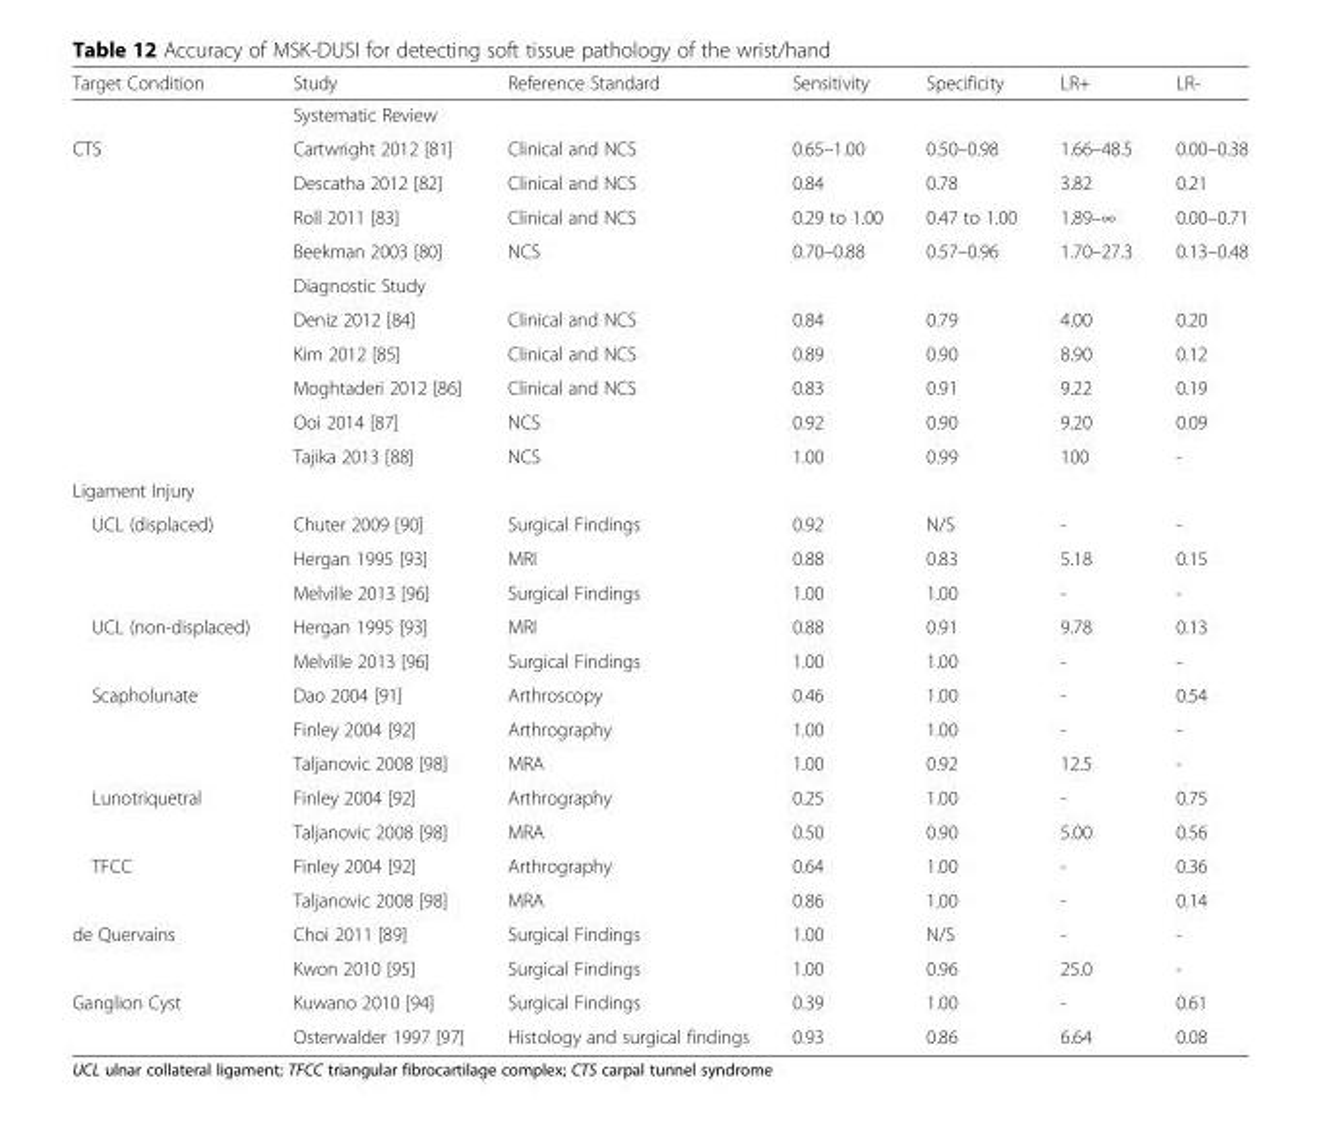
<table><thead><tr><td>Target Condition</td><td>Study</td><td>Reference Standard</td><td>Sensitivity</td><td>Specificity</td><td>LR+</td><td>LR-</td></tr></thead><tbody><tr><td></td><td>Systematic Review</td><td></td><td></td><td></td><td></td><td></td></tr><tr><td rowspan="10">CTS</td><td>Cartwright 2012 [81]</td><td>Clinical and NCS</td><td>0.65–1.00</td><td>0.50–0.98</td><td>1.66–48.5</td><td>0.00–0.38</td></tr><tr><td>Descatha 2012 [82]</td><td>Clinical and NCS</td><td>0.84</td><td>0.78</td><td>3.82</td><td>0.21</td></tr><tr><td>Roll 2011 [83]</td><td>Clinical and NCS</td><td>0.29 to 1.00</td><td>0.47 to 1.00</td><td>1.89–∞</td><td>0.00–0.71</td></tr><tr><td>Beekman 2003 [80]</td><td>NCS</td><td>0.70–0.88</td><td>0.57–0.96</td><td>1.70–27.3</td><td>0.13–0.48</td></tr><tr><td>Diagnostic Study</td><td></td><td></td><td></td><td></td><td></td></tr><tr><td>Deniz 2012 [84]</td><td>Clinical and NCS</td><td>0.84</td><td>0.79</td><td>4.00</td><td>0.20</td></tr><tr><td>Kim 2012 [85]</td><td>Clinical and NCS</td><td>0.89</td><td>0.90</td><td>8.90</td><td>0.12</td></tr><tr><td>Moghtaderi 2012 [86]</td><td>Clinical and NCS</td><td>0.83</td><td>0.91</td><td>9.22</td><td>0.19</td></tr><tr><td>Ooi 2014 [87]</td><td>NCS</td><td>0.92</td><td>0.90</td><td>9.20</td><td>0.09</td></tr><tr><td>Tajika 2013 [88]</td><td>NCS</td><td>1.00</td><td>0.99</td><td>100</td><td>-</td></tr><tr><td colspan="7">Ligament Injury</td></tr><tr><td rowspan="3">UCL (displaced)</td><td>Chuter 2009 [90]</td><td>Surgical Findings</td><td>0.92</td><td>N/S</td><td>-</td><td>-</td></tr><tr><td>Hergan 1995 [93]</td><td>MRI</td><td>0.88</td><td>0.83</td><td>5.18</td><td>0.15</td></tr><tr><td>Melville 2013 [96]</td><td>Surgical Findings</td><td>1.00</td><td>1.00</td><td>-</td><td>-</td></tr><tr><td rowspan="2">UCL (non-displaced)</td><td>Hergan 1995 [93]</td><td>MRI</td><td>0.88</td><td>0.91</td><td>9.78</td><td>0.13</td></tr><tr><td>Melville 2013 [96]</td><td>Surgical Findings</td><td>1.00</td><td>1.00</td><td>-</td><td>-</td></tr><tr><td rowspan="3">Scapholunate</td><td>Dao 2004 [91]</td><td>Arthroscopy</td><td>0.46</td><td>1.00</td><td>-</td><td>0.54</td></tr><tr><td>Finley 2004 [92]</td><td>Arthrography</td><td>1.00</td><td>1.00</td><td>-</td><td>-</td></tr><tr><td>Taljanovic 2008 [98]</td><td>MRA</td><td>1.00</td><td>0.92</td><td>12.5</td><td>-</td></tr><tr><td rowspan="2">Lunotriquetral</td><td>Finley 2004 [92]</td><td>Arthrography</td><td>0.25</td><td>1.00</td><td>-</td><td>0.75</td></tr><tr><td>Taljanovic 2008 [98]</td><td>MRA</td><td>0.50</td><td>0.90</td><td>5.00</td><td>0.56</td></tr><tr><td rowspan="2">TFCC</td><td>Finley 2004 [92]</td><td>Arthrography</td><td>0.64</td><td>1.00</td><td>-</td><td>0.36</td></tr><tr><td>Taljanovic 2008 [98]</td><td>MRA</td><td>0.86</td><td>1.00</td><td>-</td><td>0.14</td></tr><tr><td rowspan="2">de Quervains</td><td>Choi 2011 [89]</td><td>Surgical Findings</td><td>1.00</td><td>N/S</td><td>-</td><td>-</td></tr><tr><td>Kwon 2010 [95]</td><td>Surgical Findings</td><td>1.00</td><td>0.96</td><td>25.0</td><td>-</td></tr><tr><td rowspan="2">Ganglion Cyst</td><td>Kuwano 2010 [94]</td><td>Surgical Findings</td><td>0.39</td><td>1.00</td><td>-</td><td>0.61</td></tr><tr><td>Osterwalder 1997 [97]</td><td>Histology and surgical findings</td><td>0.93</td><td>0.86</td><td>6.64</td><td>0.08</td></tr></tbody></table>